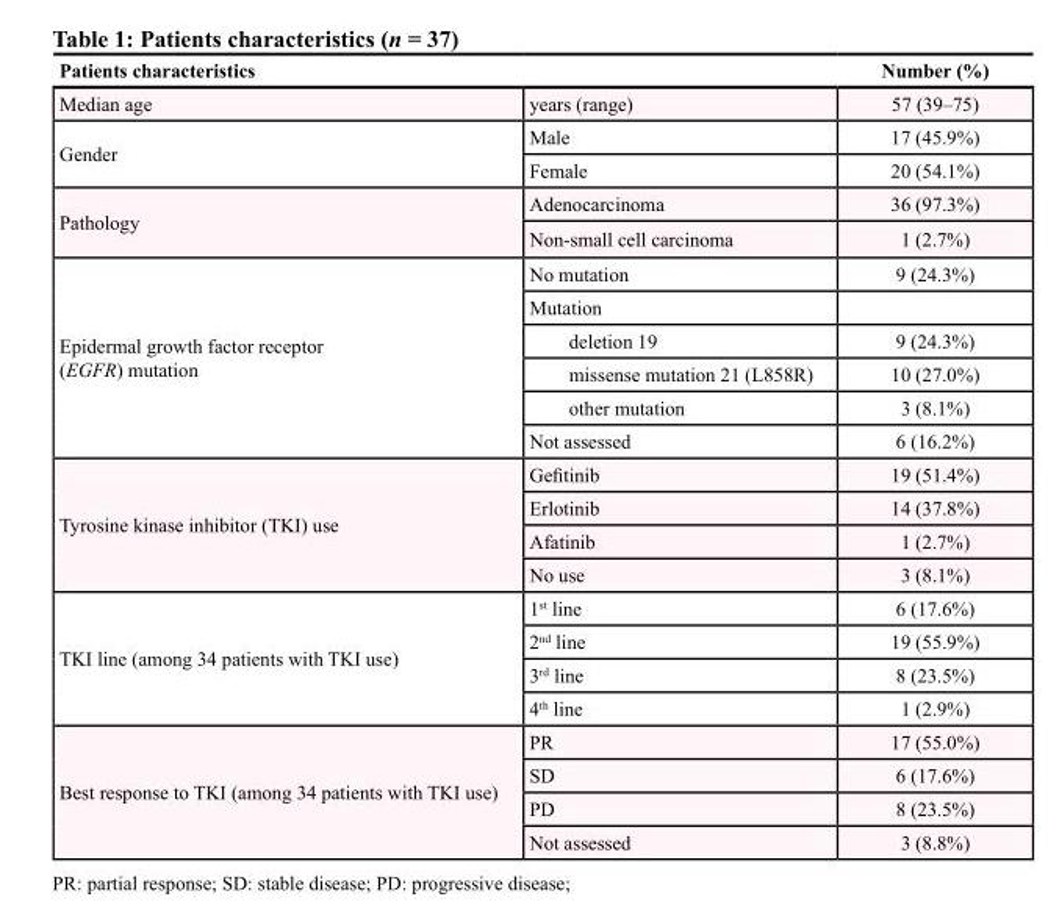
<table><thead><tr><td colspan="2">Patients characteristics</td><td rowspan="2">Number (%) 57 (39–75)</td></tr><tr><td>Median age</td><td>years (range)</td></tr></thead><tbody><tr><td rowspan="2">Gender</td><td>Male</td><td>17 (45.9%)</td></tr><tr><td>Female</td><td>20 (54.1%)</td></tr><tr><td rowspan="2">Pathology</td><td>Adenocarcinoma</td><td>36 (97.3%)</td></tr><tr><td>Non-small cell carcinoma</td><td>1 (2.7%)</td></tr><tr><td rowspan="6">Epidermal growth factor receptor (EGFR) mutation</td><td>No mutation</td><td>9 (24.3%)</td></tr><tr><td>Mutation</td><td></td></tr><tr><td>deletion 19</td><td>9 (24.3%)</td></tr><tr><td>missense mutation 21 (L858R)</td><td>10 (27.0%)</td></tr><tr><td>other mutation</td><td>3 (8.1%)</td></tr><tr><td>Not assessed</td><td>6 (16.2%)</td></tr><tr><td rowspan="4">Tyrosine kinase inhibitor (TKI) use</td><td>Gefitinib</td><td>19 (51.4%)</td></tr><tr><td>Erlotinib</td><td>14 (37.8%)</td></tr><tr><td>Afatinib</td><td>1 (2.7%)</td></tr><tr><td>No use</td><td>3 (8.1%)</td></tr><tr><td rowspan="4">TKI line (among 34 patients with TKI use)</td><td>1<sup>st</sup> line</td><td>6 (17.6%)</td></tr><tr><td>2<sup>nd</sup> line</td><td>19 (55.9%)</td></tr><tr><td>3<sup>rd</sup> line</td><td>8 (23.5%)</td></tr><tr><td>4<sup>th</sup> line</td><td>1 (2.9%)</td></tr><tr><td rowspan="4">Best response to TKI (among 34 patients with TKI use)</td><td>PR</td><td>17 (55.0%)</td></tr><tr><td>SD</td><td>6 (17.6%)</td></tr><tr><td>PD</td><td>8 (23.5%)</td></tr><tr><td>Not assessed</td><td>3 (8.8%)</td></tr></tbody></table>